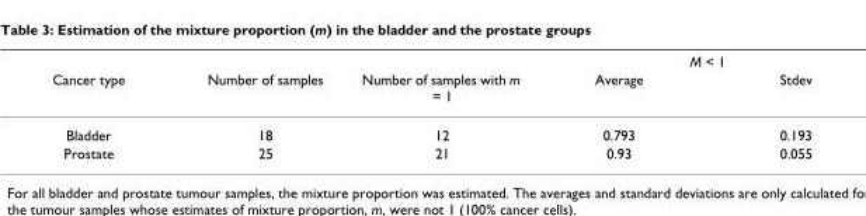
<table><thead><tr><td rowspan="2">Cancer type</td><td rowspan="2">Number of samples</td><td rowspan="2">Number of samples with m = 1</td><td colspan="2">M &lt; 1</td></tr><tr><td>Average</td><td>Stdev</td></tr></thead><tbody><tr><td>Bladder</td><td>18</td><td>12</td><td>0.793</td><td>0.193</td></tr><tr><td>Prostate</td><td>25</td><td>21</td><td>0.93</td><td>0.055</td></tr></tbody></table>